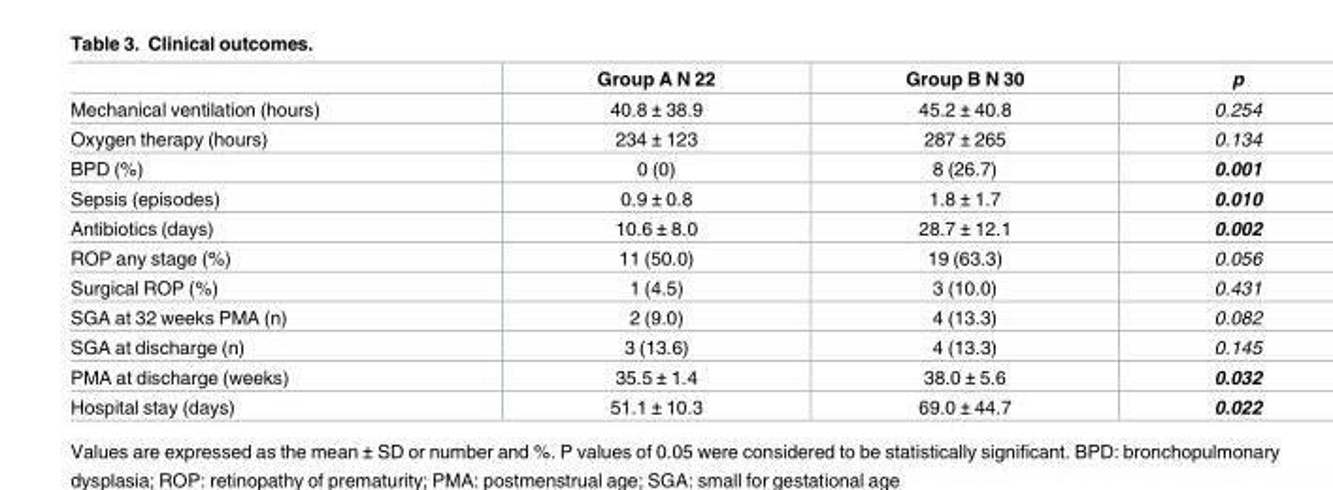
<table><thead><tr><td></td><td>Group A N 22</td><td>Group B N 30</td><td>p</td></tr></thead><tbody><tr><td>Mechanical ventilation (hours)</td><td>40.8 ± 38.9</td><td>45.2 ± 40.8</td><td>0.254</td></tr><tr><td>Oxygen therapy (hours)</td><td>234 ± 123</td><td>287 ± 265</td><td>0.134</td></tr><tr><td>BPD (%)</td><td>0 (0)</td><td>8 (26.7)</td><td>0.001</td></tr><tr><td>Sepsis (episodes)</td><td>0.9 ± 0.8</td><td>1.8 ± 1.7</td><td>0.010</td></tr><tr><td>Antibiotics (days)</td><td>10.6 ± 8.0</td><td>28.7 ± 12.1</td><td>0.002</td></tr><tr><td>ROP any stage (%)</td><td>11 (50.0)</td><td>19 (63.3)</td><td>0.056</td></tr><tr><td>Surgical ROP (%)</td><td>1 (4.5)</td><td>3 (10.0)</td><td>0.431</td></tr><tr><td>SGA at 32 weeks PMA (n)</td><td>2 (9.0)</td><td>4 (13.3)</td><td>0.082</td></tr><tr><td>SGA at discharge (n)</td><td>3 (13.6)</td><td>4 (13.3)</td><td>0.145</td></tr><tr><td>PMA at discharge (weeks)</td><td>35.5 ± 1.4</td><td>38.0 ± 5.6</td><td>0.032</td></tr><tr><td>Hospital stay (days)</td><td>51.1 ± 10.3</td><td>69.0 ± 44.7</td><td>0.022</td></tr></tbody></table>